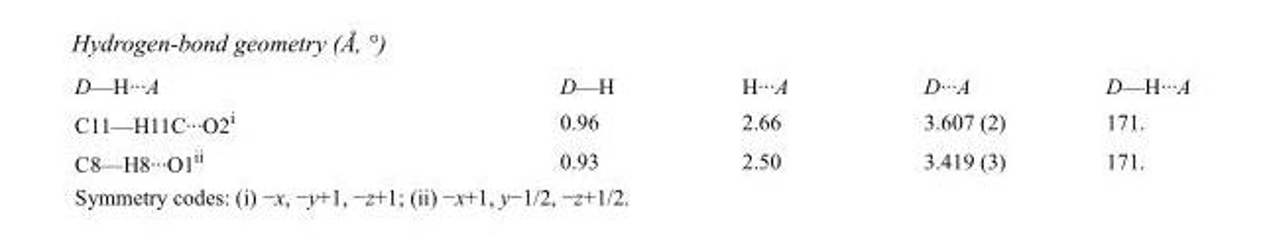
<table><tbody><tr><td>D—H···A</td><td>D—H</td><td>H···A</td><td>D···A</td><td>D—H···A</td></tr><tr><td>C11—H11C···O2<sup>i</sup></td><td>0.96</td><td>2.66</td><td>3.607 (2)</td><td>171.</td></tr><tr><td>C8—H8···O1<sup>ii</sup></td><td>0.93</td><td>2.50</td><td>3.419 (3)</td><td>171.</td></tr></tbody></table>